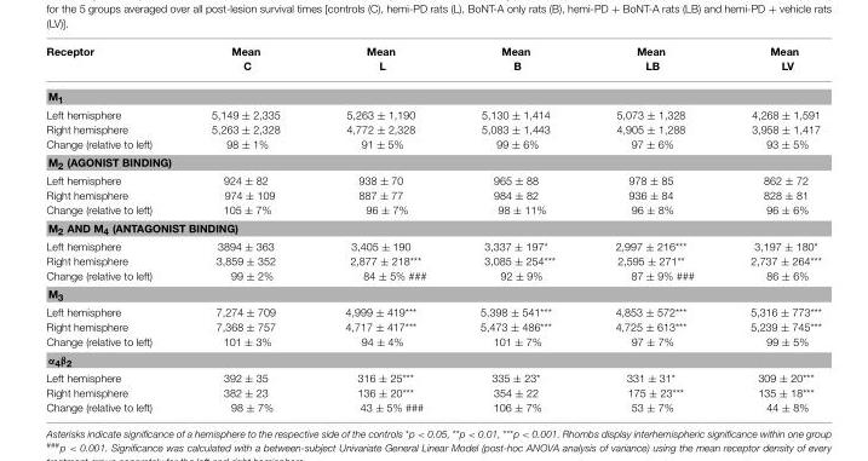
<table><thead><tr><td>Receptor</td><td>Mean C</td><td>Mean L</td><td>Mean B</td><td>Mean LB</td><td>Mean LV</td></tr></thead><tbody><tr><td colspan="6">M<sub>1</sub></td></tr><tr><td>Left hemisphere Right hemisphere Change (relative to left)</td><td>5,149 ± 2,335 5,263 ± 2,328 98 ± 1%</td><td>5,263 ± 1,190 4,772 ± 2,328 91 ± 5%</td><td>5,130 ± 1,414 5,083 ± 1,443 99 ± 6%</td><td>5,073 ± 1,328 4,905 ± 1,288 97 ± 6%</td><td>4,268 ± 1,591 3,958 ± 1,417 93 ± 5%</td></tr><tr><td colspan="6">M<sub>2</sub> (AGONIST BINDING)</td></tr><tr><td>Left hemisphere Right hemisphere Change (relative to left)</td><td>924 ± 82 974 ± 109 105 ± 7%</td><td>938 ± 70 887 ± 77 96 ± 7%</td><td>965 ± 88 984 ± 82 98 ± 11%</td><td>978 ± 85 936 ± 84 96 ± 8%</td><td>862 ± 72 828 ± 81 96 ± 6%</td></tr><tr><td colspan="6">M<sub>2</sub> AND M<sub>4</sub> (ANTAGONIST BINDING)</td></tr><tr><td>Left hemisphere Right hemisphere Change (relative to left)</td><td>3894 ± 363 3,859 ± 352 99 ± 2%</td><td>3,405 ± 190 2,877 ± 218*** 84 ± 5% <sup>###</sup></td><td>3,337 ± 197* 3,085 ± 254*** 92 ± 9%</td><td>2,997 ± 216*** 2,595 ± 271** 87 ± 9% <sup>###</sup></td><td>3,197 ± 180* 2,737 ± 264*** 86 ± 6%</td></tr><tr><td colspan="6">M<sub>3</sub></td></tr><tr><td>Left hemisphere Right hemisphere Change (relative to left)</td><td>7,274 ± 709 7,368 ± 757 101 ± 3%</td><td>4,999 ± 419*** 4,717 ± 417*** 94 ± 4%</td><td>5,398 ± 541*** 5,473 ± 486*** 101 ± 7%</td><td>4,853 ± 572*** 4,725 ± 613*** 97 ± 7%</td><td>5,316 ± 773*** 5,239 ± 745*** 99 ± 5%</td></tr><tr><td colspan="6">α<sub>4</sub>β<sub>2</sub></td></tr><tr><td>Left hemisphere Right hemisphere Change (relative to left)</td><td>392 ± 35 382 ± 23 98 ± 7%</td><td>316 ± 25*** 136 ± 20*** 43 ± 5% <sup>###</sup></td><td>335 ± 23* 354 ± 22 106 ± 7%</td><td>331 ± 31* 175 ± 23*** 53 ± 7%</td><td>309 ± 20*** 135 ± 18*** 44 ± 8%</td></tr></tbody></table>